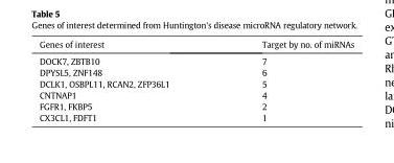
<table><thead><tr><td>Genes of interest</td><td>Target by no. of miRNAs</td></tr></thead><tbody><tr><td>DOCK7, ZBTB10</td><td>7</td></tr><tr><td>DPYSL5, ZNF148</td><td>6</td></tr><tr><td>DCLK1, OSBPL11, RCAN2, ZFP36L1</td><td>5</td></tr><tr><td>CNTNAP1</td><td>4</td></tr><tr><td>FGFR1, FKBP5</td><td>2</td></tr><tr><td>CX3CL1, FDFT1</td><td>1</td></tr></tbody></table>